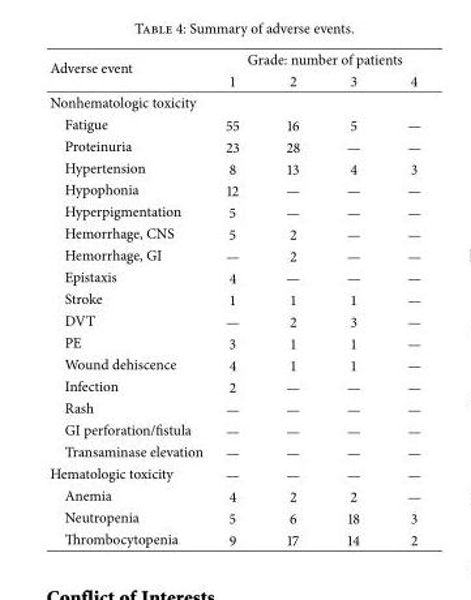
<table><thead><tr><td rowspan="2">Adverse event</td><td colspan="4">Grade: number of patients</td></tr><tr><td>1</td><td>2</td><td>3</td><td>4</td></tr></thead><tbody><tr><td colspan="5">Nonhematologic toxicity</td></tr><tr><td>Fatigue</td><td>55</td><td>16</td><td>5</td><td>—</td></tr><tr><td>Proteinuria</td><td>23</td><td>28</td><td>—</td><td>—</td></tr><tr><td>Hypertension</td><td>8</td><td>13</td><td>4</td><td>3</td></tr><tr><td>Hypophonia</td><td>12</td><td>—</td><td>—</td><td>—</td></tr><tr><td>Hyperpigmentation</td><td>5</td><td>—</td><td>—</td><td>—</td></tr><tr><td>Hemorrhage, CNS</td><td>5</td><td>2</td><td>—</td><td>—</td></tr><tr><td>Hemorrhage, GI</td><td>—</td><td>2</td><td>—</td><td>—</td></tr><tr><td>Epistaxis</td><td>4</td><td>—</td><td>—</td><td>—</td></tr><tr><td>Stroke</td><td>1</td><td>1</td><td>1</td><td>—</td></tr><tr><td>DVT</td><td>—</td><td>2</td><td>3</td><td>—</td></tr><tr><td>PE</td><td>3</td><td>1</td><td>1</td><td>—</td></tr><tr><td>Wound dehiscence</td><td>4</td><td>1</td><td>1</td><td>—</td></tr><tr><td>Infection</td><td>2</td><td>—</td><td>—</td><td>—</td></tr><tr><td>Rash</td><td>—</td><td>—</td><td>—</td><td>—</td></tr><tr><td>GI perforation/fistula</td><td>—</td><td>—</td><td>—</td><td>—</td></tr><tr><td>Transaminase elevation</td><td>—</td><td>—</td><td>—</td><td>—</td></tr><tr><td>Hematologic toxicity</td><td>—</td><td>—</td><td>—</td><td>—</td></tr><tr><td>Anemia</td><td>4</td><td>2</td><td>2</td><td>—</td></tr><tr><td>Neutropenia</td><td>5</td><td>6</td><td>18</td><td>3</td></tr><tr><td>Thrombocytopenia</td><td>9</td><td>17</td><td>14</td><td>2</td></tr></tbody></table>